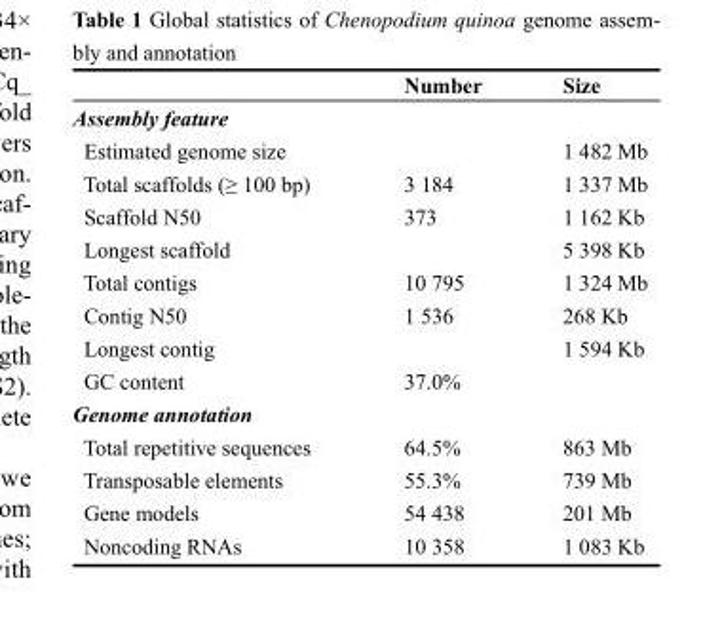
<table><thead><tr><td></td><td>Number</td><td>Size</td></tr></thead><tbody><tr><td colspan="3">Assembly feature</td></tr><tr><td>Estimated genome size</td><td></td><td>1 482 Mb</td></tr><tr><td>Total scaffolds (≥ 100 bp)</td><td>3 184</td><td>1 337 Mb</td></tr><tr><td>Scaffold N50</td><td>373</td><td>1 162 Kb</td></tr><tr><td>Longest scaffold</td><td></td><td>5 398 Kb</td></tr><tr><td>Total contigs</td><td>10 795</td><td>1 324 Mb</td></tr><tr><td>Contig N50</td><td>1 536</td><td>268 Kb</td></tr><tr><td>Longest contig</td><td></td><td>1 594 Kb</td></tr><tr><td>GC content</td><td>37.0%</td><td></td></tr><tr><td colspan="3">Genome annotation</td></tr><tr><td>Total repetitive sequences</td><td>64.5%</td><td>863 Mb</td></tr><tr><td>Transposable elements</td><td>55.3%</td><td>739 Mb</td></tr><tr><td>Gene models</td><td>54 438</td><td>201 Mb</td></tr><tr><td>Noncoding RNAs</td><td>10 358</td><td>1 083 Kb</td></tr></tbody></table>